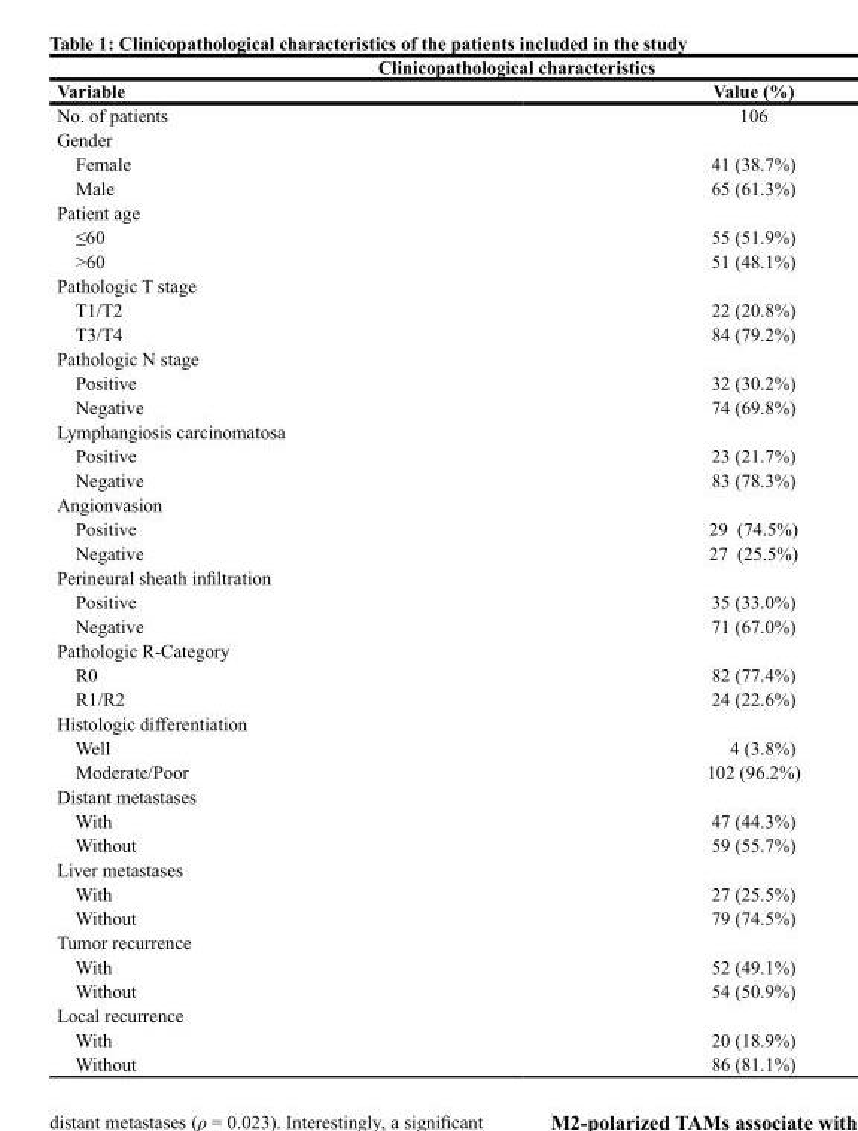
<table><thead><tr><td colspan="2">clinicopathological characteristics</td></tr><tr><td>Variable</td><td>Value (%)</td></tr></thead><tbody><tr><td>No. of patients</td><td>106</td></tr><tr><td colspan="2">Gender</td></tr><tr><td>Female</td><td>41 (38.7%)</td></tr><tr><td>Male</td><td>65 (61.3%)</td></tr><tr><td colspan="2">Patient age</td></tr><tr><td>≤60</td><td>55 (51.9%)</td></tr><tr><td>&gt;60</td><td>51 (48.1%)</td></tr><tr><td colspan="2">Pathologic T stage</td></tr><tr><td>T1/T2</td><td>22 (20.8%)</td></tr><tr><td>T3/T4</td><td>84 (79.2%)</td></tr><tr><td colspan="2">Pathologic N stage</td></tr><tr><td>Positive</td><td>32 (30.2%)</td></tr><tr><td>Negative</td><td>74 (69.8%)</td></tr><tr><td colspan="2">Lymphangiosis carcinomatosa</td></tr><tr><td>Positive</td><td>23 (21.7%)</td></tr><tr><td>Negative</td><td>83 (78.3%)</td></tr><tr><td colspan="2">Angionvasion</td></tr><tr><td>Positive</td><td>29 (74.5%)</td></tr><tr><td>Negative</td><td>27 (25.5%)</td></tr><tr><td colspan="2">Perineural sheath infiltration</td></tr><tr><td>Positive</td><td>35 (33.0%)</td></tr><tr><td>Negative</td><td>71 (67.0%)</td></tr><tr><td colspan="2">Pathologic R-Category</td></tr><tr><td>R0</td><td>82 (77.4%)</td></tr><tr><td>R1/R2</td><td>24 (22.6%)</td></tr><tr><td colspan="2">Histologic differentiation</td></tr><tr><td>Well</td><td>4 (3.8%)</td></tr><tr><td>Moderate/Poor</td><td>102 (96.2%)</td></tr><tr><td colspan="2">Distant metastases</td></tr><tr><td>With</td><td>47 (44.3%)</td></tr><tr><td>Without</td><td>59 (55.7%)</td></tr><tr><td colspan="2">Liver metastases</td></tr><tr><td>With</td><td>27 (25.5%)</td></tr><tr><td>Without</td><td>79 (74.5%)</td></tr><tr><td colspan="2">Tumor recurrence</td></tr><tr><td>With</td><td>52 (49.1%)</td></tr><tr><td>Without</td><td>54 (50.9%)</td></tr><tr><td colspan="2">Local recurrence</td></tr><tr><td>With</td><td>20 (18.9%)</td></tr><tr><td>Without</td><td>86 (81.1%)</td></tr></tbody></table>